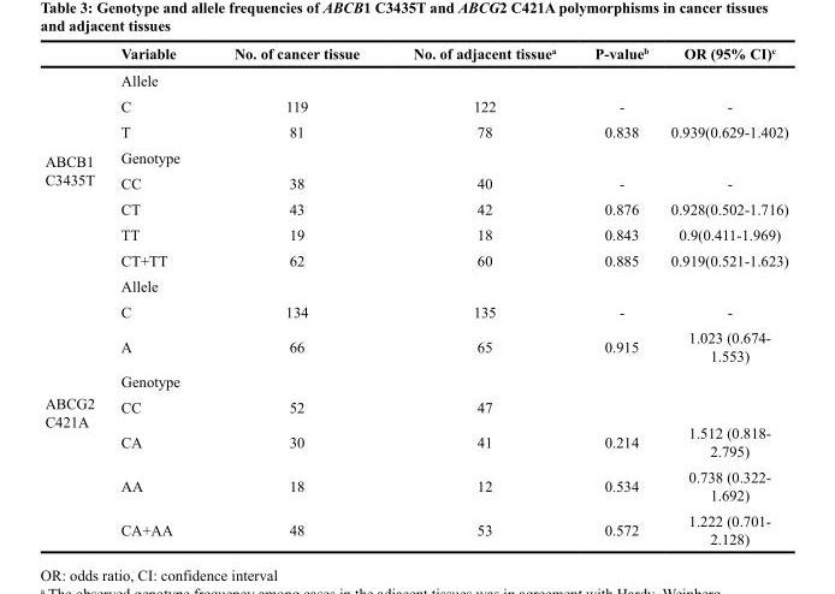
<table><thead><tr><td></td><td>Variable</td><td>No. of cancer tissue</td><td>No. of adjacent tissue<sup>a</sup></td><td>P-value<sup>b</sup></td><td>OR (95% CI)<sup>c</sup></td></tr></thead><tbody><tr><td rowspan="8">ABCB1 C3435T</td><td>Allele</td><td></td><td></td><td></td><td></td></tr><tr><td>C</td><td>119</td><td>122</td><td>-</td><td>-</td></tr><tr><td>T</td><td>81</td><td>78</td><td>0.838</td><td>0.939(0.629-1.402)</td></tr><tr><td>Genotype</td><td></td><td></td><td></td><td></td></tr><tr><td>CC</td><td>38</td><td>40</td><td>-</td><td>-</td></tr><tr><td>CT</td><td>43</td><td>42</td><td>0.876</td><td>0.928(0.502-1.716)</td></tr><tr><td>TT</td><td>19</td><td>18</td><td>0.843</td><td>0.9(0.411-1.969)</td></tr><tr><td>CT+TT</td><td>62</td><td>60</td><td>0.885</td><td>0.919(0.521-1.623)</td></tr><tr><td rowspan="8">ABCG2 C421A</td><td>Allele</td><td></td><td></td><td></td><td></td></tr><tr><td>C</td><td>134</td><td>135</td><td>-</td><td>-</td></tr><tr><td>A</td><td>66</td><td>65</td><td>0.915</td><td>1.023 (0.674- 1.553)</td></tr><tr><td>Genotype</td><td></td><td></td><td></td><td></td></tr><tr><td>CC</td><td>52</td><td>47</td><td></td><td></td></tr><tr><td>CA</td><td>30</td><td>41</td><td>0.214</td><td>1.512 (0.818- 2.795)</td></tr><tr><td>AA</td><td>18</td><td>12</td><td>0.534</td><td>0.738 (0.322- 1.692)</td></tr><tr><td>CA+AA</td><td>48</td><td>53</td><td>0.572</td><td>1.222 (0.701- 2.128)</td></tr></tbody></table>